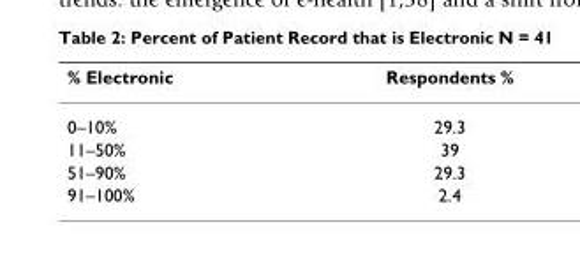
<table><thead><tr><td>% Electronic</td><td>Respondents %</td></tr></thead><tbody><tr><td>0–10%</td><td>29.3</td></tr><tr><td>11–50%</td><td>39</td></tr><tr><td>51–90%</td><td>29.3</td></tr><tr><td>91–100%</td><td>2.4</td></tr></tbody></table>